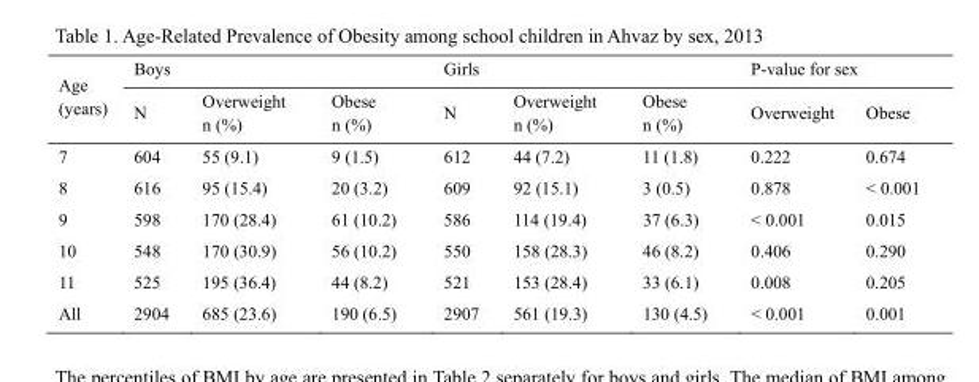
<table><thead><tr><td rowspan="2">Age (years)</td><td colspan="3">Boys</td><td colspan="3">Girls</td><td colspan="2">P-value for sex</td></tr><tr><td>N</td><td>Overweight n (%)</td><td>Obese n (%)</td><td>N</td><td>Overweight n (%)</td><td>Obese n (%)</td><td>Overweight</td><td>Obese</td></tr></thead><tbody><tr><td>7</td><td>604</td><td>55 (9.1)</td><td>9 (1.5)</td><td>612</td><td>44 (7.2)</td><td>11 (1.8)</td><td>0.222</td><td>0.674</td></tr><tr><td>8</td><td>616</td><td>95 (15.4)</td><td>20 (3.2)</td><td>609</td><td>92 (15.1)</td><td>3 (0.5)</td><td>0.878</td><td>&lt; 0.001</td></tr><tr><td>9</td><td>598</td><td>170 (28.4)</td><td>61 (10.2)</td><td>586</td><td>114 (19.4)</td><td>37 (6.3)</td><td>&lt; 0.001</td><td>0.015</td></tr><tr><td>10</td><td>548</td><td>170 (30.9)</td><td>56 (10.2)</td><td>550</td><td>158 (28.3)</td><td>46 (8.2)</td><td>0.406</td><td>0.290</td></tr><tr><td>11</td><td>525</td><td>195 (36.4)</td><td>44 (8.2)</td><td>521</td><td>153 (28.4)</td><td>33 (6.1)</td><td>0.008</td><td>0.205</td></tr><tr><td>All</td><td>2904</td><td>685 (23.6)</td><td>190 (6.5)</td><td>2907</td><td>561 (19.3)</td><td>130 (4.5)</td><td>&lt; 0.001</td><td>0.001</td></tr></tbody></table>